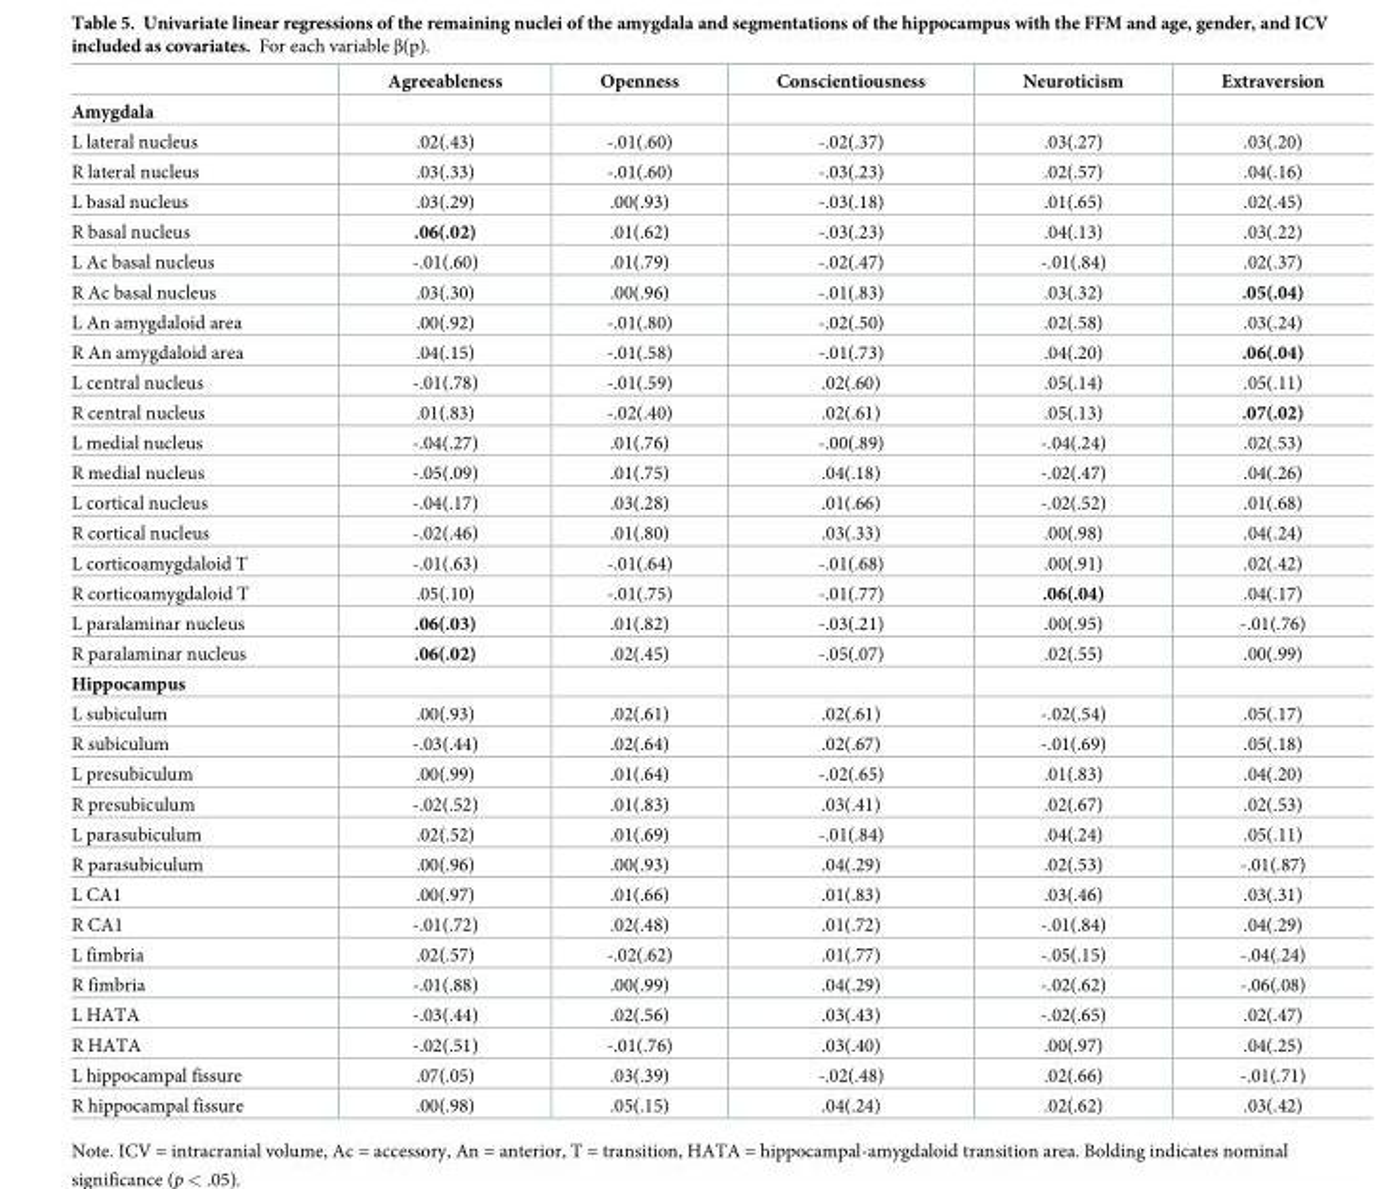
<table><thead><tr><td></td><td>Agreeableness</td><td>Openness</td><td>Conscientiousness</td><td>Neuroticism</td><td>Extraversion</td></tr></thead><tbody><tr><td colspan="6">Amygdala</td></tr><tr><td>L lateral nucleus</td><td>.02(.43)</td><td>-.01(.60)</td><td>-.02(.37)</td><td>.03(.27)</td><td>.03(.20)</td></tr><tr><td>R lateral nucleus</td><td>.03(.33)</td><td>-.01(.60)</td><td>-.03(.23)</td><td>.02(.57)</td><td>.04(.16)</td></tr><tr><td>L basal nucleus</td><td>.03(.29)</td><td>.00(.93)</td><td>-.03(.18)</td><td>.01(.65)</td><td>.02(.45)</td></tr><tr><td>R basal nucleus</td><td>.06(.02)</td><td>.01(.62)</td><td>-.03(.23)</td><td>.04(.13)</td><td>.03(.22)</td></tr><tr><td>L Ac basal nucleus</td><td>-.01(.60)</td><td>.01(.79)</td><td>-.02(.47)</td><td>-.01(.84)</td><td>.02(.37)</td></tr><tr><td>R Ac basal nucleus</td><td>.03(.30)</td><td>.00(.96)</td><td>-.01(.83)</td><td>.03(.32)</td><td>.05(.04)</td></tr><tr><td>L An amygdaloid area</td><td>.00(.92)</td><td>-.01(.80)</td><td>-.02(.50)</td><td>.02(.58)</td><td>.03(.24)</td></tr><tr><td>R An amygdaloid area</td><td>.04(.15)</td><td>-.01(.58)</td><td>-.01(.73)</td><td>.04(.20)</td><td>.06(.04)</td></tr><tr><td>L central nucleus</td><td>-.01(.78)</td><td>-.01(.59)</td><td>.02(.60)</td><td>.05(.14)</td><td>.05(.11)</td></tr><tr><td>R central nucleus</td><td>.01(.83)</td><td>-.02(.40)</td><td>.02(.61)</td><td>.05(.13)</td><td>.07(.02)</td></tr><tr><td>L medial nucleus</td><td>-.04(.27)</td><td>.01(.76)</td><td>-.00(.89)</td><td>-.04(.24)</td><td>.02(.53)</td></tr><tr><td>R medial nucleus</td><td>-.05(.09)</td><td>.01(.75)</td><td>.04(.18)</td><td>-.02(.47)</td><td>.04(.26)</td></tr><tr><td>L cortical nucleus</td><td>-.04(.17)</td><td>.03(.28)</td><td>.01(.66)</td><td>-.02(.52)</td><td>.01(.68)</td></tr><tr><td>R cortical nucleus</td><td>-.02(.46)</td><td>.01(.80)</td><td>.03(.33)</td><td>.00(.98)</td><td>.04(.24)</td></tr><tr><td>L corticoamygdaloid T</td><td>-.01(.63)</td><td>-.01(.64)</td><td>-.01(.68)</td><td>.00(.91)</td><td>.02(.42)</td></tr><tr><td>R corticoamygdaloid T</td><td>.05(.10)</td><td>-.01(.75)</td><td>-.01(.77)</td><td>.06(.04)</td><td>.04(.17)</td></tr><tr><td>L paralaminar nucleus</td><td>.06(.03)</td><td>.01(.82)</td><td>-.03(.21)</td><td>.00(.95)</td><td>-.01(.76)</td></tr><tr><td>R paralaminar nucleus</td><td>.06(.02)</td><td>.02(.45)</td><td>-.05(.07)</td><td>.02(.55)</td><td>.00(.99)</td></tr><tr><td colspan="6">Hippocampus</td></tr><tr><td>L subiculum</td><td>.00(.93)</td><td>.02(.61)</td><td>.02(.61)</td><td>-.02(.54)</td><td>.05(.17)</td></tr><tr><td>R subiculum</td><td>-.03(.44)</td><td>.02(.64)</td><td>.02(.67)</td><td>-.01(.69)</td><td>.05(.18)</td></tr><tr><td>L presubiculum</td><td>.00(.99)</td><td>.01(.64)</td><td>-.02(.65)</td><td>.01(.83)</td><td>.04(.20)</td></tr><tr><td>R presubiculum</td><td>-.02(.52)</td><td>.01(.83)</td><td>.03(.41)</td><td>.02(.67)</td><td>.02(.53)</td></tr><tr><td>L parasubiculum</td><td>.02(.52)</td><td>.01(.69)</td><td>-.01(.84)</td><td>.04(.24)</td><td>.05(.11)</td></tr><tr><td>R parasubiculum</td><td>.00(.96)</td><td>.00(.93)</td><td>.04(.29)</td><td>.02(.53)</td><td>-.01(.87)</td></tr><tr><td>L CA1</td><td>.00(.97)</td><td>.01(.66)</td><td>.01(.83)</td><td>.03(.46)</td><td>.03(.31)</td></tr><tr><td>R CA1</td><td>-.01(.72)</td><td>.02(.48)</td><td>.01(.72)</td><td>-.01(.84)</td><td>.04(.29)</td></tr><tr><td>L fimbria</td><td>.02(.57)</td><td>-.02(.62)</td><td>.01(.77)</td><td>-.05(.15)</td><td>-.04(.24)</td></tr><tr><td>R fimbria</td><td>-.01(.88)</td><td>.00(.99)</td><td>.04(.29)</td><td>-.02(.62)</td><td>-.06(.08)</td></tr><tr><td>L HATA</td><td>-.03(.44)</td><td>.02(.56)</td><td>.03(.43)</td><td>-.02(.65)</td><td>.02(.47)</td></tr><tr><td>R HATA</td><td>-.02(.51)</td><td>-.01(.76)</td><td>.03(.40)</td><td>.00(.97)</td><td>.04(.25)</td></tr><tr><td>L hippocampal fissure</td><td>.07(.05)</td><td>.03(.39)</td><td>-.02(.48)</td><td>.02(.66)</td><td>-.01(.71)</td></tr><tr><td>R hippocampal fissure</td><td>.00(.98)</td><td>.05(.15)</td><td>.04(.24)</td><td>.02(.62)</td><td>.03(.42)</td></tr></tbody></table>